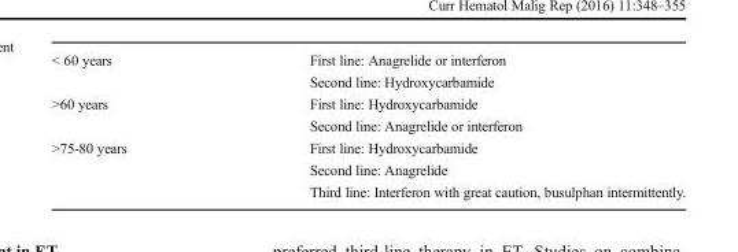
<table><tbody><tr><td rowspan="2">&lt; 60 years</td><td>First line: Anagrelide or interferon</td></tr><tr><td>Second line: Hydroxycarbamide</td></tr><tr><td rowspan="2">&gt;60 years</td><td>First line: Hydroxycarbamide</td></tr><tr><td>Second line: Anagrelide or interferon</td></tr><tr><td rowspan="3">&gt;75-80 years</td><td>First line: Hydroxycarbamide</td></tr><tr><td>Second line: Anagrelide</td></tr><tr><td>Third line: Interferon with great caution, busulphan intermittently.</td></tr></tbody></table>